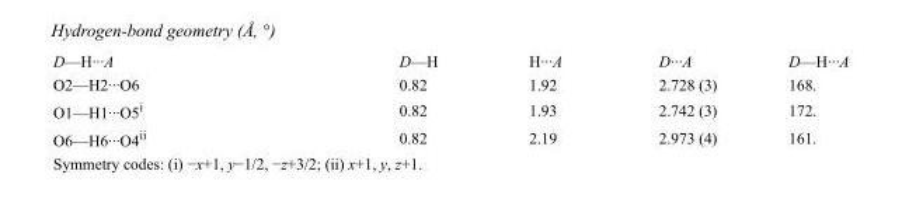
<table><tbody><tr><td>D—H···A</td><td>D—H</td><td>H···A</td><td>D···A</td><td>D—H···A</td></tr><tr><td>O2—H2···O6</td><td>0.82</td><td>1.92</td><td>2.728 (3)</td><td>168.</td></tr><tr><td>O1—H1···O5<sup>i</sup></td><td>0.82</td><td>1.93</td><td>2.742 (3)</td><td>172.</td></tr><tr><td>O6—H6···O4<sup>ii</sup></td><td>0.82</td><td>2.19</td><td>2.973 (4)</td><td>161.</td></tr></tbody></table>